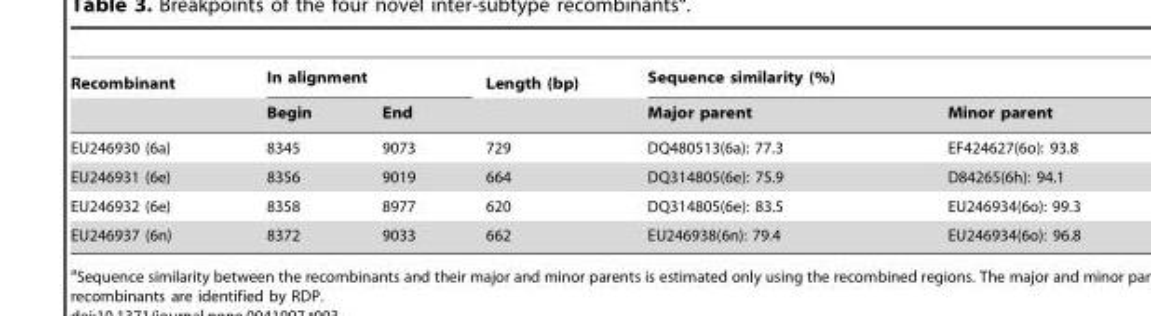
<table><thead><tr><td rowspan="2">Recombinant</td><td colspan="2">In alignment</td><td rowspan="2">Length (bp)</td><td colspan="2">Sequence similarity (%)</td></tr><tr><td>Begin</td><td>End</td><td>Major parent</td><td>Minor parent</td></tr></thead><tbody><tr><td>EU246930 (6a)</td><td>8345</td><td>9073</td><td>729</td><td>DQ480513(6a): 77.3</td><td>EF424627(6o): 93.8</td></tr><tr><td>EU246931 (6e)</td><td>8356</td><td>9019</td><td>664</td><td>DQ314805(6e): 75.9</td><td>D84265(6h): 94.1</td></tr><tr><td>EU246932 (6e)</td><td>8358</td><td>8977</td><td>620</td><td>DQ314805(6e): 83.5</td><td>EU246934(6o): 99.3</td></tr><tr><td>EU246937 (6n)</td><td>8372</td><td>9033</td><td>662</td><td>EU246938(6n): 79.4</td><td>EU246934(6o): 96.8</td></tr></tbody></table>